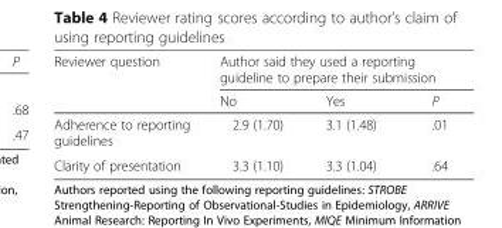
<table><thead><tr><td rowspan="2">Reviewer question</td><td colspan="3">Author said they used a reporting guideline to prepare their submission</td></tr><tr><td>No</td><td>Yes</td><td>P</td></tr></thead><tbody><tr><td>Adherence to reporting guidelines</td><td>2.9 (1.70)</td><td>3.1 (1.48)</td><td>.01</td></tr><tr><td>Clarity of presentation</td><td>3.3 (1.10)</td><td>3.3 (1.04)</td><td>.64</td></tr></tbody></table>